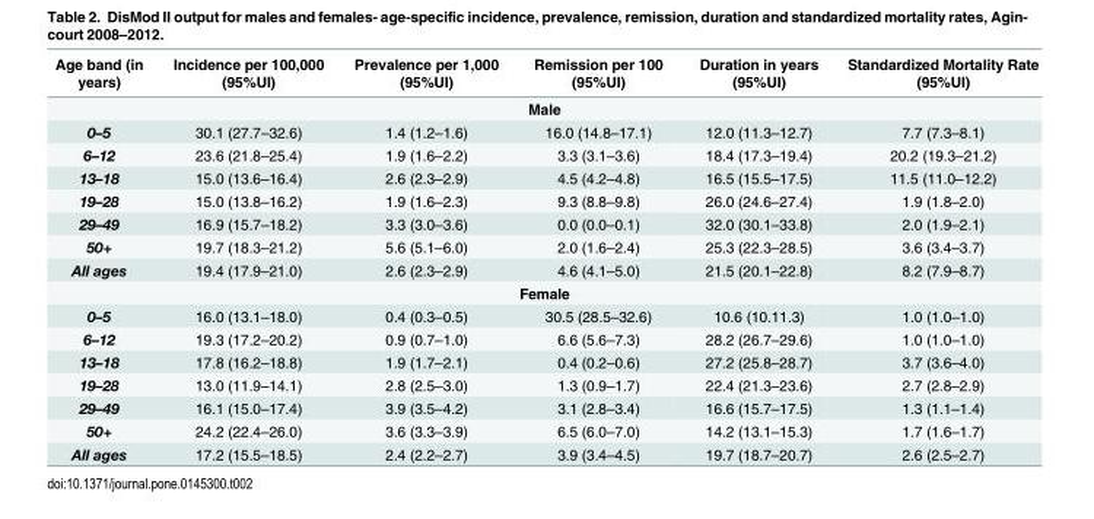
<table><thead><tr><td>Age band (in years)</td><td>Incidence per 100,000 (95%UI)</td><td>Prevalence per 1,000 (95%UI)</td><td>Remission per 100 (95%UI)</td><td>Duration in years (95%UI)</td><td>Standardized Mortality Rate (95%UI)</td></tr></thead><tbody><tr><td colspan="6">Male</td></tr><tr><td>0–5</td><td>30.1 (27.7–32.6)</td><td>1.4 (1.2–1.6)</td><td>16.0 (14.8–17.1)</td><td>12.0 (11.3–12.7)</td><td>7.7 (7.3–8.1)</td></tr><tr><td>6–12</td><td>23.6 (21.8–25.4)</td><td>1.9 (1.6–2.2)</td><td>3.3 (3.1–3.6)</td><td>18.4 (17.3–19.4)</td><td>20.2 (19.3–21.2)</td></tr><tr><td>13–18</td><td>15.0 (13.6–16.4)</td><td>2.6 (2.3–2.9)</td><td>4.5 (4.2–4.8)</td><td>16.5 (15.5–17.5)</td><td>11.5 (11.0–12.2)</td></tr><tr><td>19–28</td><td>15.0 (13.8–16.2)</td><td>1.9 (1.6–2.3)</td><td>9.3 (8.8–9.8)</td><td>26.0 (24.6–27.4)</td><td>1.9 (1.8–2.0)</td></tr><tr><td>29–49</td><td>16.9 (15.7–18.2)</td><td>3.3 (3.0–3.6)</td><td>0.0 (0.0–0.1)</td><td>32.0 (30.1–33.8)</td><td>2.0 (1.9–2.1)</td></tr><tr><td>50+</td><td>19.7 (18.3–21.2)</td><td>5.6 (5.1–6.0)</td><td>2.0 (1.6–2.4)</td><td>25.3 (22.3–28.5)</td><td>3.6 (3.4–3.7)</td></tr><tr><td>All ages</td><td>19.4 (17.9–21.0)</td><td>2.6 (2.3–2.9)</td><td>4.6 (4.1–5.0)</td><td>21.5 (20.1–22.8)</td><td>8.2 (7.9–8.7)</td></tr><tr><td colspan="6">Female</td></tr><tr><td>0–5</td><td>16.0 (13.1–18.0)</td><td>0.4 (0.3–0.5)</td><td>30.5 (28.5–32.6)</td><td>10.6 (10.11.3)</td><td>1.0 (1.0–1.0)</td></tr><tr><td>6–12</td><td>19.3 (17.2–20.2)</td><td>0.9 (0.7–1.0)</td><td>6.6 (5.6–7.3)</td><td>28.2 (26.7–29.6)</td><td>1.0 (1.0–1.0)</td></tr><tr><td>13–18</td><td>17.8 (16.2–18.8)</td><td>1.9 (1.7–2.1)</td><td>0.4 (0.2–0.6)</td><td>27.2 (25.8–28.7)</td><td>3.7 (3.6–4.0)</td></tr><tr><td>19–28</td><td>13.0 (11.9–14.1)</td><td>2.8 (2.5–3.0)</td><td>1.3 (0.9–1.7)</td><td>22.4 (21.3–23.6)</td><td>2.7 (2.8–2.9)</td></tr><tr><td>29–49</td><td>16.1 (15.0–17.4)</td><td>3.9 (3.5–4.2)</td><td>3.1 (2.8–3.4)</td><td>16.6 (15.7–17.5)</td><td>1.3 (1.1–1.4)</td></tr><tr><td>50+</td><td>24.2 (22.4–26.0)</td><td>3.6 (3.3–3.9)</td><td>6.5 (6.0–7.0)</td><td>14.2 (13.1–15.3)</td><td>1.7 (1.6–1.7)</td></tr><tr><td>All ages</td><td>17.2 (15.5–18.5)</td><td>2.4 (2.2–2.7)</td><td>3.9 (3.4–4.5)</td><td>19.7 (18.7–20.7)</td><td>2.6 (2.5–2.7)</td></tr></tbody></table>